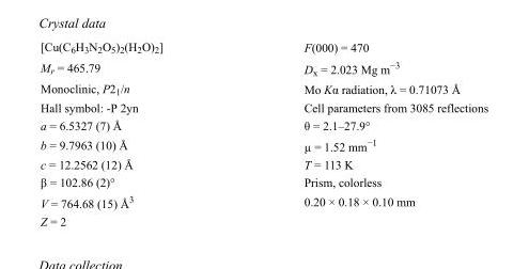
<table><tbody><tr><td>[Cu(C<sub>6</sub>H<sub>3</sub>N<sub>2</sub>O<sub>5</sub>)<sub>2</sub>(H<sub>2</sub>O)<sub>2</sub>]</td><td>F(000) = 470</td></tr><tr><td>M<sub>r</sub> = 465.79</td><td>D<sub>x</sub> = 2.023 Mg m<sup>−3</sup></td></tr><tr><td>Monoclinic, P2<sub>1</sub>/n</td><td>Mo Kα radiation, λ = 0.71073 Å</td></tr><tr><td>Hall symbol: -P 2yn</td><td>Cell parameters from 3085 reflections</td></tr><tr><td>a = 6.5327 (7) Å</td><td>θ = 2.1–27.9°</td></tr><tr><td>b = 9.7963 (10) Å</td><td>µ = 1.52 mm<sup>−1</sup></td></tr><tr><td>c = 12.2562 (12) Å</td><td>T = 113 K</td></tr><tr><td>β = 102.86 (2)°</td><td>Prism, colorless</td></tr><tr><td>V = 764.68 (15) Å<sup>3</sup></td><td>0.20 × 0.18 × 0.10 mm</td></tr><tr><td>Z = 2</td><td></td></tr></tbody></table>